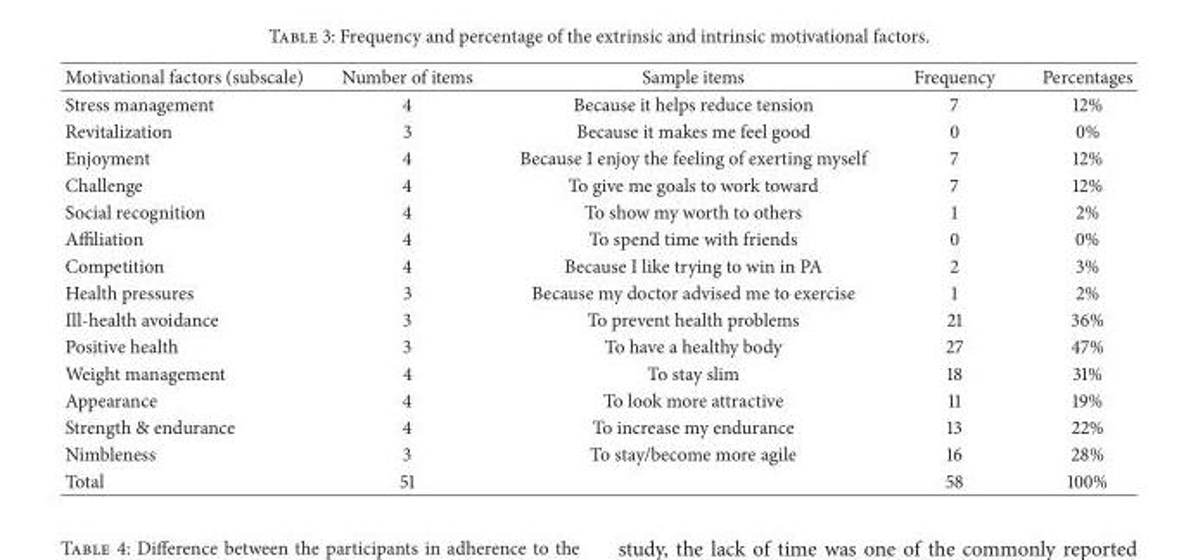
<table><thead><tr><td>Motivational factors (subscale)</td><td>Number of items</td><td>Sample items</td><td>Frequency</td><td>Percentages</td></tr></thead><tbody><tr><td>Stress management</td><td>4</td><td>Because it helps reduce tension</td><td>7</td><td>12%</td></tr><tr><td>Revitalization</td><td>3</td><td>Because it makes me feel good</td><td>0</td><td>0%</td></tr><tr><td>Enjoyment</td><td>4</td><td>Because I enjoy the feeling of exerting myself</td><td>7</td><td>12%</td></tr><tr><td>Challenge</td><td>4</td><td>To give me goals to work toward</td><td>7</td><td>12%</td></tr><tr><td>Social recognition</td><td>4</td><td>To show my worth to others</td><td>1</td><td>2%</td></tr><tr><td>Affiliation</td><td>4</td><td>To spend time with friends</td><td>0</td><td>0%</td></tr><tr><td>Competition</td><td>4</td><td>Because I like trying to win in PA</td><td>2</td><td>3%</td></tr><tr><td>Health pressures</td><td>3</td><td>Because my doctor advised me to exercise</td><td>1</td><td>2%</td></tr><tr><td>Ill-health avoidance</td><td>3</td><td>To prevent health problems</td><td>21</td><td>36%</td></tr><tr><td>Positive health</td><td>3</td><td>To have a healthy body</td><td>27</td><td>47%</td></tr><tr><td>Weight management</td><td>4</td><td>To stay slim</td><td>18</td><td>31%</td></tr><tr><td>Appearance</td><td>4</td><td>To look more attractive</td><td>11</td><td>19%</td></tr><tr><td>Strength &amp; endurance</td><td>4</td><td>To increase my endurance</td><td>13</td><td>22%</td></tr><tr><td>Nimbleness</td><td>3</td><td>To stay/become more agile</td><td>16</td><td>28%</td></tr><tr><td>Total</td><td>51</td><td></td><td>58</td><td>100%</td></tr></tbody></table>